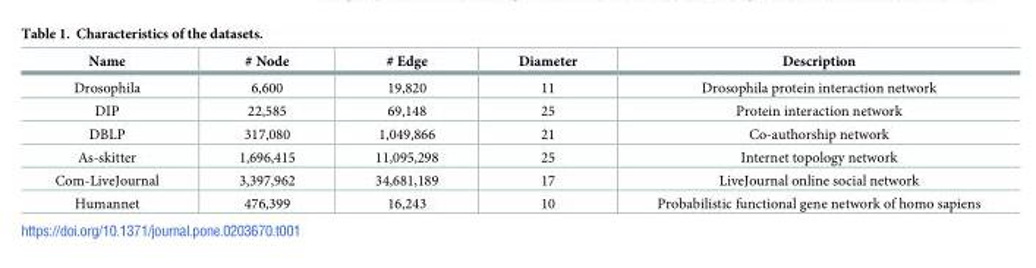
<table><thead><tr><td>Name</td><td># Node</td><td># Edge</td><td>Diameter</td><td>Description</td></tr></thead><tbody><tr><td>Drosophila</td><td>6,600</td><td>19,820</td><td>11</td><td>Drosophila protein interaction network</td></tr><tr><td>DIP</td><td>22,585</td><td>69,148</td><td>25</td><td>Protein interaction network</td></tr><tr><td>DBLP</td><td>317,080</td><td>1,049,866</td><td>21</td><td>Co-authorship network</td></tr><tr><td>As-skitter</td><td>1,696,415</td><td>11,095,298</td><td>25</td><td>Internet topology network</td></tr><tr><td>Com-LiveJournal</td><td>3,397,962</td><td>34,681,189</td><td>17</td><td>LiveJournal online social network</td></tr><tr><td>Humannet</td><td>476,399</td><td>16,243</td><td>10</td><td>Probabilistic functional gene network of homo sapiens</td></tr></tbody></table>